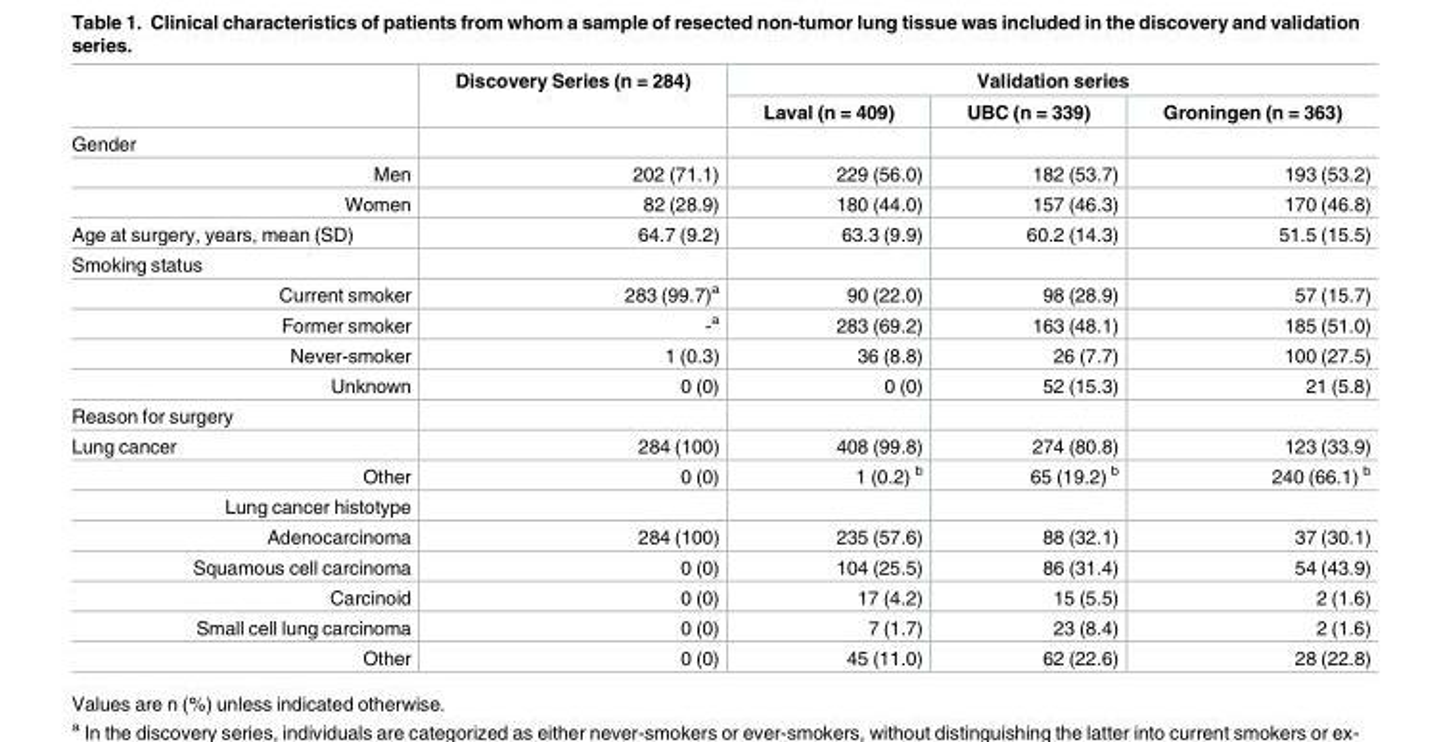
<table><thead><tr><td rowspan="2"></td><td rowspan="2">Discovery Series (n = 284)</td><td colspan="3">Validation series</td></tr><tr><td>Laval (n = 409)</td><td>UBC (n = 339)</td><td>Groningen (n = 363)</td></tr></thead><tbody><tr><td colspan="5">Gender</td></tr><tr><td>Men</td><td>202 (71.1)</td><td>229 (56.0)</td><td>182 (53.7)</td><td>193 (53.2)</td></tr><tr><td>Women</td><td>82 (28.9)</td><td>180 (44.0)</td><td>157 (46.3)</td><td>170 (46.8)</td></tr><tr><td>Age at surgery, years, mean (SD)</td><td>64.7 (9.2)</td><td>63.3 (9.9)</td><td>60.2 (14.3)</td><td>51.5 (15.5)</td></tr><tr><td colspan="5">Smoking status</td></tr><tr><td>Current smoker</td><td>283 (99.7)<sup>a</sup></td><td>90 (22.0)</td><td>98 (28.9)</td><td>57 (15.7)</td></tr><tr><td>Former smoker</td><td>-<sup>a</sup></td><td>283 (69.2)</td><td>163 (48.1)</td><td>185 (51.0)</td></tr><tr><td>Never-smoker</td><td>1 (0.3)</td><td>36 (8.8)</td><td>26 (7.7)</td><td>100 (27.5)</td></tr><tr><td>Unknown</td><td>0 (0)</td><td>0 (0)</td><td>52 (15.3)</td><td>21 (5.8)</td></tr><tr><td colspan="5">Reason for surgery</td></tr><tr><td>Lung cancer</td><td>284 (100)</td><td>408 (99.8)</td><td>274 (80.8)</td><td>123 (33.9)</td></tr><tr><td>Other</td><td>0 (0)</td><td>1 (0.2) <sup>b</sup></td><td>65 (19.2) <sup>b</sup></td><td>240 (66.1) <sup>b</sup></td></tr><tr><td colspan="5">Lung cancer histotype</td></tr><tr><td>Adenocarcinoma</td><td>284 (100)</td><td>235 (57.6)</td><td>88 (32.1)</td><td>37 (30.1)</td></tr><tr><td>Squamous cell carcinoma</td><td>0 (0)</td><td>104 (25.5)</td><td>86 (31.4)</td><td>54 (43.9)</td></tr><tr><td>Carcinoid</td><td>0 (0)</td><td>17 (4.2)</td><td>15 (5.5)</td><td>2 (1.6)</td></tr><tr><td>Small cell lung carcinoma</td><td>0 (0)</td><td>7 (1.7)</td><td>23 (8.4)</td><td>2 (1.6)</td></tr><tr><td>Other</td><td>0 (0)</td><td>45 (11.0)</td><td>62 (22.6)</td><td>28 (22.8)</td></tr></tbody></table>